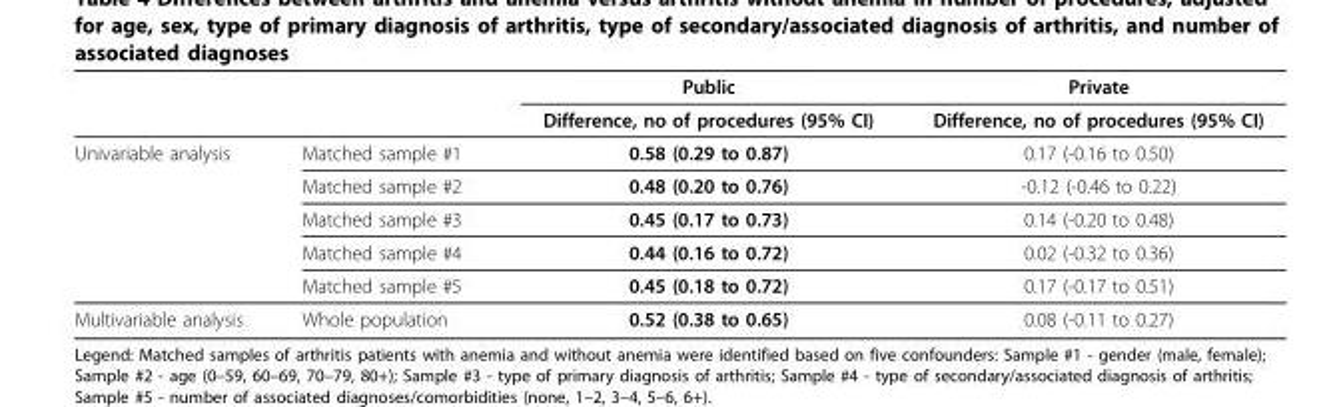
<table><thead><tr><td rowspan="2"></td><td rowspan="2"></td><td rowspan="2">Public Difference, no of procedures (95% CI)</td><td rowspan="2">Private Difference, no of procedures (95% CI)</td></tr><tr></tr></thead><tbody><tr><td rowspan="5">Univariable analysis</td><td>Matched sample #1</td><td>0.58 (0.29 to 0.87)</td><td>0.17 (-0.16 to 0.50)</td></tr><tr><td>Matched sample #2</td><td>0.48 (0.20 to 0.76)</td><td>-0.12 (-0.46 to 0.22)</td></tr><tr><td>Matched sample #3</td><td>0.45 (0.17 to 0.73)</td><td>0.14 (-0.20 to 0.48)</td></tr><tr><td>Matched sample #4</td><td>0.44 (0.16 to 0.72)</td><td>0.02 (-0.32 to 0.36)</td></tr><tr><td>Matched sample #5</td><td>0.45 (0.18 to 0.72)</td><td>0.17 (-0.17 to 0.51)</td></tr><tr><td>Multivariable analysis</td><td>Whole population</td><td>0.52 (0.38 to 0.65)</td><td>0.08 (-0.11 to 0.27)</td></tr></tbody></table>